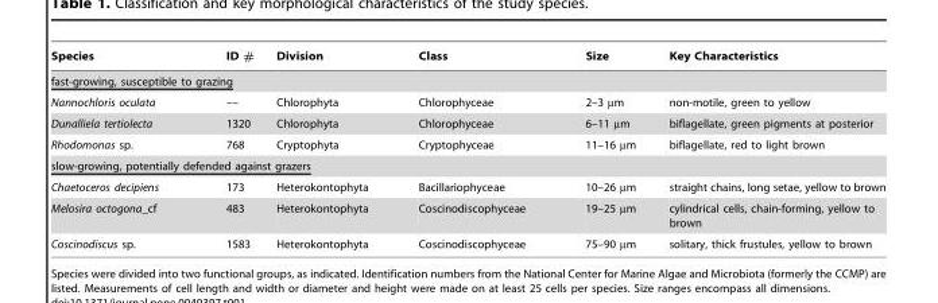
<table><thead><tr><td>Species</td><td>ID #</td><td>Division</td><td>Class</td><td>Size</td><td>Key Characteristics</td></tr></thead><tbody><tr><td colspan="6">fast-growing, susceptible to grazing</td></tr><tr><td>Nannochloris oculata</td><td>––</td><td>Chlorophyta</td><td>Chlorophyceae</td><td>2–3 µm</td><td>non-motile, green to yellow</td></tr><tr><td>Dunalliela tertiolecta</td><td>1320</td><td>Chlorophyta</td><td>Chlorophyceae</td><td>6–11 µm</td><td>biflagellate, green pigments at posterior</td></tr><tr><td>Rhodomonas sp.</td><td>768</td><td>Cryptophyta</td><td>Cryptophyceae</td><td>11–16 µm</td><td>biflagellate, red to light brown</td></tr><tr><td colspan="6">slow-growing, potentially defended against grazers</td></tr><tr><td>Chaetoceros decipiens</td><td>173</td><td>Heterokontophyta</td><td>Bacillariophyceae</td><td>10–26 µm</td><td>straight chains, long setae, yellow to brown</td></tr><tr><td>Melosira octogona_cf</td><td>483</td><td>Heterokontophyta</td><td>Coscinodiscophyceae</td><td>19–25 µm</td><td>cylindrical cells, chain-forming, yellow to brown</td></tr><tr><td>Coscinodiscus sp.</td><td>1583</td><td>Heterokontophyta</td><td>Coscinodiscophyceae</td><td>75–90 µm</td><td>solitary, thick frustules, yellow to brown</td></tr></tbody></table>